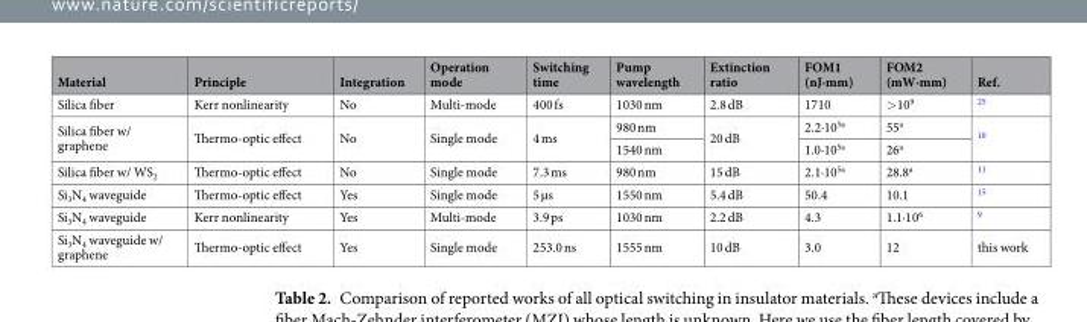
<table><thead><tr><td>Material</td><td>Principle</td><td>Integration</td><td>Operation mode</td><td>Switching time</td><td>Pump wavelength</td><td>Extinction ratio</td><td>FOM1 (nJ∙mm)</td><td>FOM2 (mW∙mm)</td><td>Ref.</td></tr></thead><tbody><tr><td>Silica fiber</td><td>Kerr nonlinearity</td><td>No</td><td>Multi-mode</td><td>400 fs</td><td>1030 nm</td><td>2.8 dB</td><td>1710</td><td>&gt;10<sup>9</sup></td><td><sup>25</sup></td></tr><tr><td rowspan="2">Silica fiber w/ graphene</td><td rowspan="2">Thermo-optic effect</td><td rowspan="2">No</td><td rowspan="2">Single mode</td><td rowspan="2">4 ms</td><td>980 nm</td><td rowspan="2">20 dB</td><td>2.2∙10<sup>5a</sup></td><td>55<sup>a</sup></td><td rowspan="2"><sup>10</sup></td></tr><tr><td>1540 nm</td><td>1.0∙10<sup>5a</sup></td><td>26<sup>a</sup></td></tr><tr><td>Silica fiber w/ WS<sub>2</sub></td><td>Thermo-optic effect</td><td>No</td><td>Single mode</td><td>7.3 ms</td><td>980 nm</td><td>15 dB</td><td>2.1∙10<sup>5a</sup></td><td>28.8<sup>a</sup></td><td><sup>11</sup></td></tr><tr><td>Si<sub>3</sub>N<sub>4</sub> waveguide</td><td>Thermo-optic effect</td><td>Yes</td><td>Single mode</td><td>5 µs</td><td>1550 nm</td><td>5.4 dB</td><td>50.4</td><td>10.1</td><td><sup>15</sup></td></tr><tr><td>Si<sub>3</sub>N<sub>4</sub> waveguide</td><td>Kerr nonlinearity</td><td>Yes</td><td>Multi-mode</td><td>3.9 ps</td><td>1030 nm</td><td>2.2 dB</td><td>4.3</td><td>1.1∙10<sup>6</sup></td><td><sup>9</sup></td></tr><tr><td>Si<sub>3</sub>N<sub>4</sub> waveguide w/ graphene</td><td>Thermo-optic effect</td><td>Yes</td><td>Single mode</td><td>253.0 ns</td><td>1555 nm</td><td>10 dB</td><td>3.0</td><td>12</td><td>this work</td></tr></tbody></table>